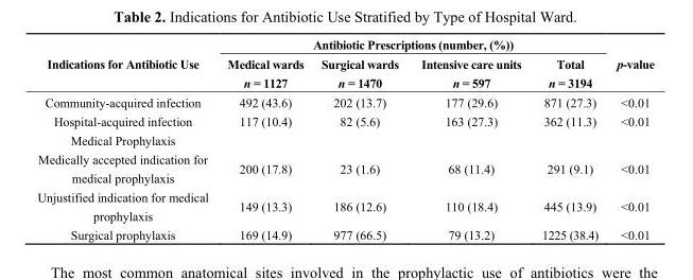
<table><thead><tr><td rowspan="2">Indications for Antibiotic Use</td><td colspan="4">Antibiotic Prescriptions (number, (%))</td><td rowspan="2">p-value</td></tr><tr><td>Medical wards n = 1127</td><td>Surgical wards n = 1470</td><td>Intensive care units n = 597</td><td>Total n = 3194</td></tr></thead><tbody><tr><td>Community-acquired infection</td><td>492 (43.6)</td><td>202 (13.7)</td><td>177 (29.6)</td><td>871 (27.3)</td><td>&lt;0.01</td></tr><tr><td>Hospital-acquired infection</td><td>117 (10.4)</td><td>82 (5.6)</td><td>163 (27.3)</td><td>362 (11.3)</td><td>&lt;0.01</td></tr><tr><td colspan="6">Medical Prophylaxis</td></tr><tr><td>Medically accepted indication for medical prophylaxis</td><td>200 (17.8)</td><td>23 (1.6)</td><td>68 (11.4)</td><td>291 (9.1)</td><td>&lt;0.01</td></tr><tr><td>Unjustified indication for medical prophylaxis</td><td>149 (13.3)</td><td>186 (12.6)</td><td>110 (18.4)</td><td>445 (13.9)</td><td>&lt;0.01</td></tr><tr><td>Surgical prophylaxis</td><td>169 (14.9)</td><td>977 (66.5)</td><td>79 (13.2)</td><td>1225 (38.4)</td><td>&lt;0.01</td></tr></tbody></table>